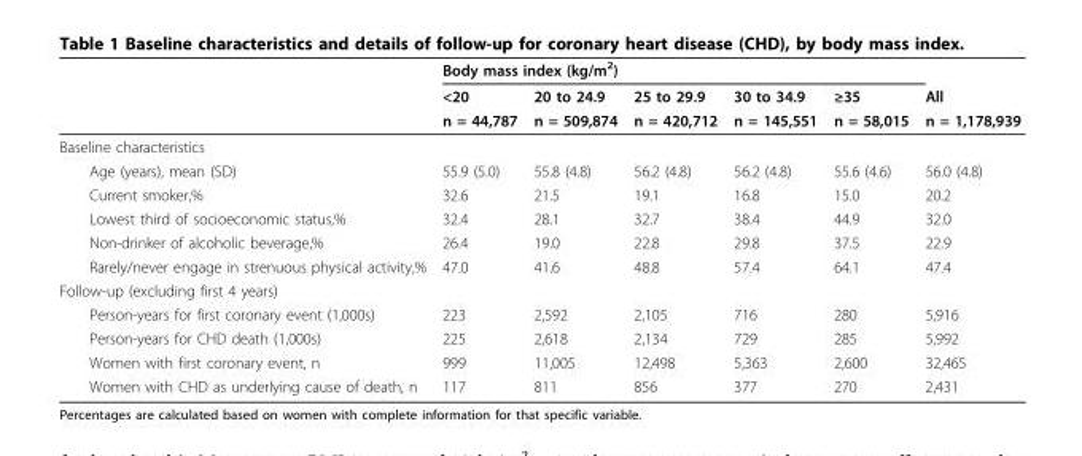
<table><thead><tr><td rowspan="3"></td><td colspan="5">Body mass index (kg/m<sup>2</sup>)</td><td rowspan="3">All n = 1,178,939</td></tr><tr><td rowspan="2">&lt;20 n = 44,787</td><td rowspan="2">20 to 24.9 n = 509,874</td><td rowspan="2">25 to 29.9 n = 420,712</td><td rowspan="2">30 to 34.9 n = 145,551</td><td rowspan="2">≥35 n = 58,015</td></tr><tr></tr></thead><tbody><tr><td colspan="7">Baseline characteristics</td></tr><tr><td>Age (years), mean (SD)</td><td>55.9 (5.0)</td><td>55.8 (4.8)</td><td>56.2 (4.8)</td><td>56.2 (4.8)</td><td>55.6 (4.6)</td><td>56.0 (4.8)</td></tr><tr><td>Current smoker,%</td><td>32.6</td><td>21.5</td><td>19.1</td><td>16.8</td><td>15.0</td><td>20.2</td></tr><tr><td>Lowest third of socioeconomic status,%</td><td>32.4</td><td>28.1</td><td>32.7</td><td>38.4</td><td>44.9</td><td>32.0</td></tr><tr><td>Non-drinker of alcoholic beverage,%</td><td>26.4</td><td>19.0</td><td>22.8</td><td>29.8</td><td>37.5</td><td>22.9</td></tr><tr><td>Rarely/never engage in strenuous physical activity,%</td><td>47.0</td><td>41.6</td><td>48.8</td><td>57.4</td><td>64.1</td><td>47.4</td></tr><tr><td colspan="7">Follow-up (excluding first 4 years)</td></tr><tr><td>Person-years for first coronary event (1,000s)</td><td>223</td><td>2,592</td><td>2,105</td><td>716</td><td>280</td><td>5,916</td></tr><tr><td>Person-years for CHD death (1,000s)</td><td>225</td><td>2,618</td><td>2,134</td><td>729</td><td>285</td><td>5,992</td></tr><tr><td>Women with first coronary event, n</td><td>999</td><td>11,005</td><td>12,498</td><td>5,363</td><td>2,600</td><td>32,465</td></tr><tr><td>Women with CHD as underlying cause of death, n</td><td>117</td><td>811</td><td>856</td><td>377</td><td>270</td><td>2,431</td></tr></tbody></table>